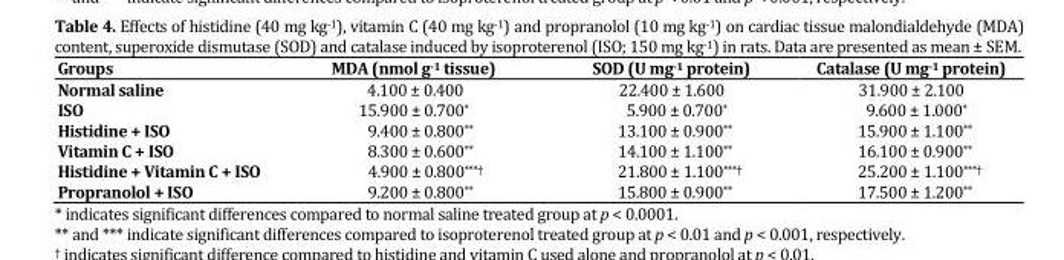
<table><thead><tr><td>Groups</td><td>MDA (nmol g<sup>-1</sup> tissue)</td><td>SOD (U mg<sup>-1</sup> protein)</td><td>Catalase (U mg<sup>-1</sup> protein)</td></tr></thead><tbody><tr><td>Normal saline</td><td>4.100 ± 0.400</td><td>22.400 ± 1.600</td><td>31.900 ± 2.100</td></tr><tr><td>ISO</td><td>15.900 ± 0.700*</td><td>5.900 ± 0.700*</td><td>9.600 ± 1.000*</td></tr><tr><td>Histidine + ISO</td><td>9.400 ± 0.800**</td><td>13.100 ± 0.900**</td><td>15.900 ± 1.100**</td></tr><tr><td>Vitamin C + ISO</td><td>8.300 ± 0.600**</td><td>14.100 ± 1.100**</td><td>16.100 ± 0.900**</td></tr><tr><td>Histidine + Vitamin C + ISO</td><td>4.900 ± 0.800***†</td><td>21.800 ± 1.100***†</td><td>25.200 ± 1.100***†</td></tr><tr><td>Propranolol + ISO</td><td>9.200 ± 0.800**</td><td>15.800 ± 0.900**</td><td>17.500 ± 1.200**</td></tr></tbody></table>